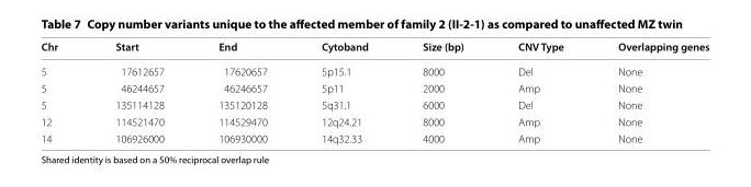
<table><thead><tr><td>Chr</td><td>Start</td><td>End</td><td>Cytoband</td><td>Size (bp)</td><td>CNV Type</td><td>Overlapping genes</td></tr></thead><tbody><tr><td>5</td><td>17612657</td><td>17620657</td><td>5p15.1</td><td>8000</td><td>Del</td><td>None</td></tr><tr><td>5</td><td>46244657</td><td>46246657</td><td>5p11</td><td>2000</td><td>Amp</td><td>None</td></tr><tr><td>5</td><td>135114128</td><td>135120128</td><td>5q31.1</td><td>6000</td><td>Del</td><td>None</td></tr><tr><td>12</td><td>114521470</td><td>114529470</td><td>12q24.21</td><td>8000</td><td>Amp</td><td>None</td></tr><tr><td>14</td><td>106926000</td><td>106930000</td><td>14q32.33</td><td>4000</td><td>Amp</td><td>None</td></tr></tbody></table>